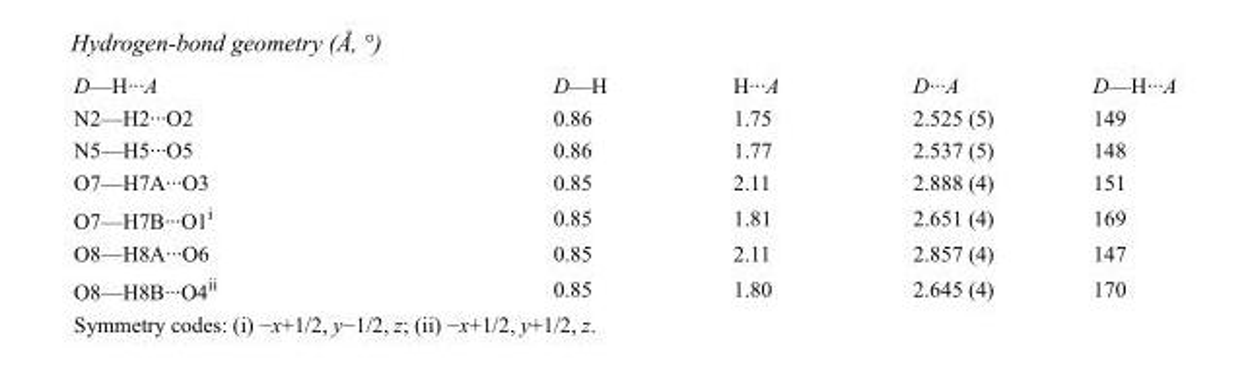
<table><tbody><tr><td>D—H···A</td><td>D—H</td><td>H···A</td><td>D···A</td><td>D—H···A</td></tr><tr><td>N2—H2···O2</td><td>0.86</td><td>1.75</td><td>2.525 (5)</td><td>149</td></tr><tr><td>N5—H5···O5</td><td>0.86</td><td>1.77</td><td>2.537 (5)</td><td>148</td></tr><tr><td>O7—H7A···O3</td><td>0.85</td><td>2.11</td><td>2.888 (4)</td><td>151</td></tr><tr><td>O7—H7B···O1<sup>i</sup></td><td>0.85</td><td>1.81</td><td>2.651 (4)</td><td>169</td></tr><tr><td>O8—H8A···O6</td><td>0.85</td><td>2.11</td><td>2.857 (4)</td><td>147</td></tr><tr><td>O8—H8B···O4<sup>ii</sup></td><td>0.85</td><td>1.80</td><td>2.645 (4)</td><td>170</td></tr></tbody></table>